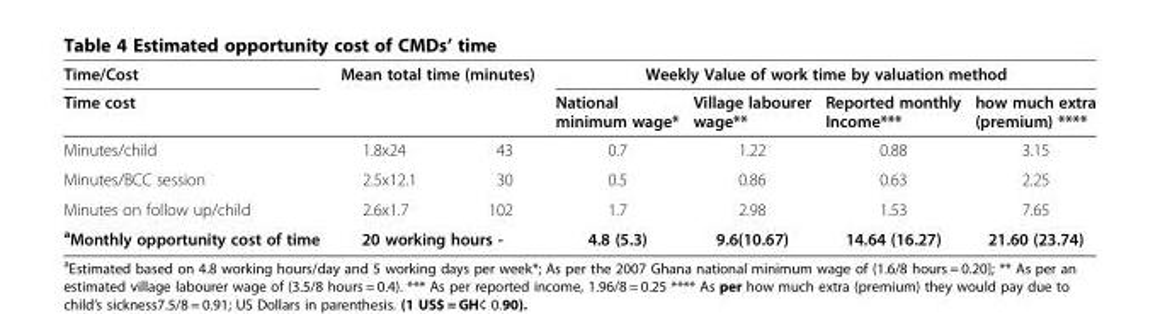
<table><thead><tr><td rowspan="2">Time/Cost Time cost</td><td colspan="2">Mean total time (minutes)</td><td colspan="4">Weekly Value of work time by valuation method</td></tr><tr><td></td><td></td><td>National minimum wage*</td><td>Village labourer wage**</td><td>Reported monthly Income***</td><td>how much extra (premium) ****</td></tr></thead><tbody><tr><td>Minutes/child</td><td>1.8x24</td><td>43</td><td>0.7</td><td>1.22</td><td>0.88</td><td>3.15</td></tr><tr><td>Minutes/BCC session</td><td>2.5x12.1</td><td>30</td><td>0.5</td><td>0.86</td><td>0.63</td><td>2.25</td></tr><tr><td>Minutes on follow up/child</td><td>2.6x1.7</td><td>102</td><td>1.7</td><td>2.98</td><td>1.53</td><td>7.65</td></tr><tr><td><sup>a</sup>Monthly opportunity cost of time</td><td colspan="2">20 working hours -</td><td>4.8 (5.3)</td><td>9.6(10.67)</td><td>14.64 (16.27)</td><td>21.60 (23.74)</td></tr></tbody></table>